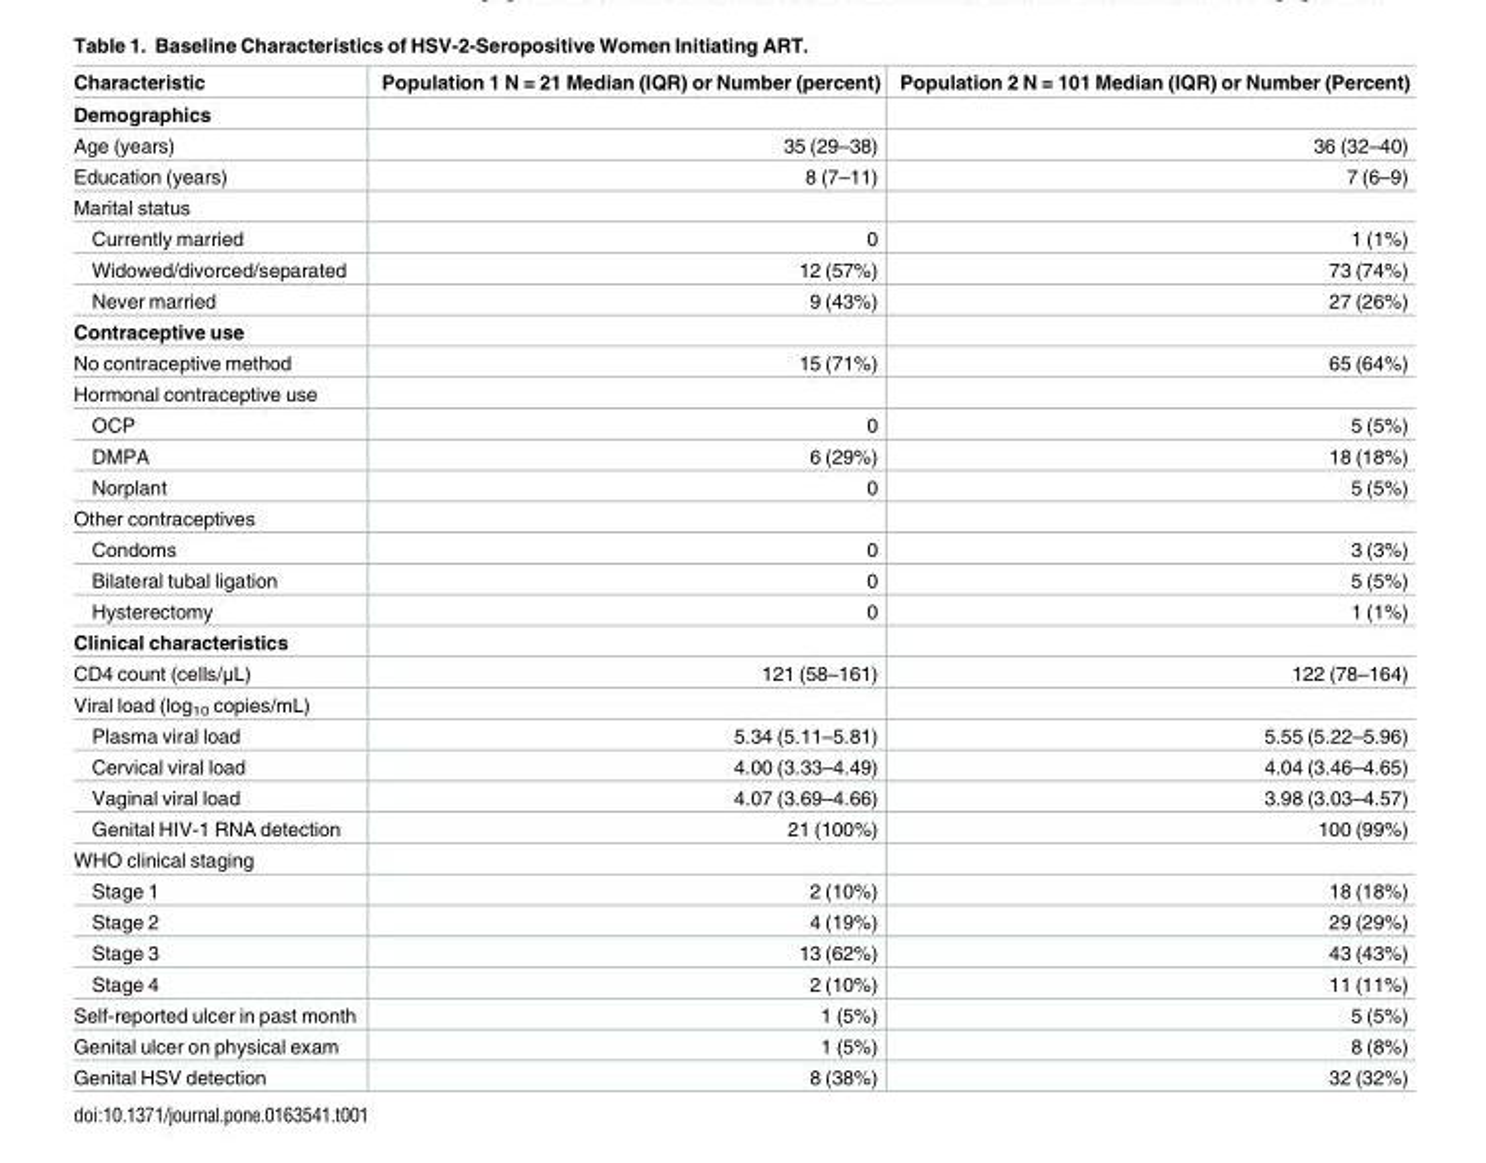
<table><thead><tr><td>Characteristic</td><td>Population 1 N = 21 Median (IQR) or Number (percent)</td><td>Population 2 N = 101 Median (IQR) or Number (Percent)</td></tr></thead><tbody><tr><td colspan="3">Demographics</td></tr><tr><td>Age (years)</td><td>35 (29–38)</td><td>36 (32–40)</td></tr><tr><td>Education (years)</td><td>8 (7–11)</td><td>7 (6–9)</td></tr><tr><td colspan="3">Marital status</td></tr><tr><td>Currently married</td><td>0</td><td>1 (1%)</td></tr><tr><td>Widowed/divorced/separated</td><td>12 (57%)</td><td>73 (74%)</td></tr><tr><td>Never married</td><td>9 (43%)</td><td>27 (26%)</td></tr><tr><td colspan="3">Contraceptive use</td></tr><tr><td>No contraceptive method</td><td>15 (71%)</td><td>65 (64%)</td></tr><tr><td colspan="3">Hormonal contraceptive use</td></tr><tr><td>OCP</td><td>0</td><td>5 (5%)</td></tr><tr><td>DMPA</td><td>6 (29%)</td><td>18 (18%)</td></tr><tr><td>Norplant</td><td>0</td><td>5 (5%)</td></tr><tr><td colspan="3">Other contraceptives</td></tr><tr><td>Condoms</td><td>0</td><td>3 (3%)</td></tr><tr><td>Bilateral tubal ligation</td><td>0</td><td>5 (5%)</td></tr><tr><td>Hysterectomy</td><td>0</td><td>1 (1%)</td></tr><tr><td colspan="3">Clinical characteristics</td></tr><tr><td>CD4 count (cells/μL)</td><td>121 (58–161)</td><td>122 (78–164)</td></tr><tr><td colspan="3">Viral load (log<sub>10</sub> copies/mL)</td></tr><tr><td>Plasma viral load</td><td>5.34 (5.11–5.81)</td><td>5.55 (5.22–5.96)</td></tr><tr><td>Cervical viral load</td><td>4.00 (3.33–4.49)</td><td>4.04 (3.46–4.65)</td></tr><tr><td>Vaginal viral load</td><td>4.07 (3.69–4.66)</td><td>3.98 (3.03–4.57)</td></tr><tr><td>Genital HIV-1 RNA detection</td><td>21 (100%)</td><td>100 (99%)</td></tr><tr><td colspan="3">WHO clinical staging</td></tr><tr><td>Stage 1</td><td>2 (10%)</td><td>18 (18%)</td></tr><tr><td>Stage 2</td><td>4 (19%)</td><td>29 (29%)</td></tr><tr><td>Stage 3</td><td>13 (62%)</td><td>43 (43%)</td></tr><tr><td>Stage 4</td><td>2 (10%)</td><td>11 (11%)</td></tr><tr><td>Self-reported ulcer in past month</td><td>1 (5%)</td><td>5 (5%)</td></tr><tr><td>Genital ulcer on physical exam</td><td>1 (5%)</td><td>8 (8%)</td></tr><tr><td>Genital HSV detection</td><td>8 (38%)</td><td>32 (32%)</td></tr></tbody></table>